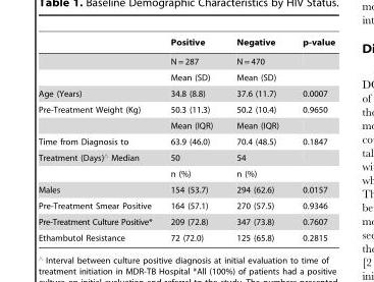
<table><thead><tr><td></td><td>Positive</td><td>Negative</td><td>p-value</td></tr></thead><tbody><tr><td></td><td>N = 287</td><td>N = 470</td><td></td></tr><tr><td></td><td>Mean (SD)</td><td>Mean (SD)</td><td></td></tr><tr><td>Age (Years)</td><td>34.8 (8.8)</td><td>37.6 (11.7)</td><td>0.0007</td></tr><tr><td rowspan="2">Pre-Treatment Weight (Kg)</td><td>50.3 (11.3)</td><td>50.2 (10.4)</td><td>0.9650</td></tr><tr><td>Mean (IQR)</td><td>Mean (IQR)</td><td></td></tr><tr><td>Time from Diagnosis to</td><td>63.9 (46.0)</td><td>70.4 (48.5)</td><td>0.1847</td></tr><tr><td rowspan="2">Treatment (Days)‘ Median</td><td>50</td><td>54</td><td></td></tr><tr><td>n (%)</td><td>n (%)</td><td></td></tr><tr><td>Males</td><td>154 (53.7)</td><td>294 (62.6)</td><td>0.0157</td></tr><tr><td>Pre-Treatment Smear Positive</td><td>164 (57.1)</td><td>270 (57.5)</td><td>0.9346</td></tr><tr><td>Pre-Treatment Culture Positive*</td><td>209 (72.8)</td><td>347 (73.8)</td><td>0.7607</td></tr><tr><td>Ethambutol Resistance</td><td>72 (72.0)</td><td>125 (65.8)</td><td>0.2815</td></tr></tbody></table>